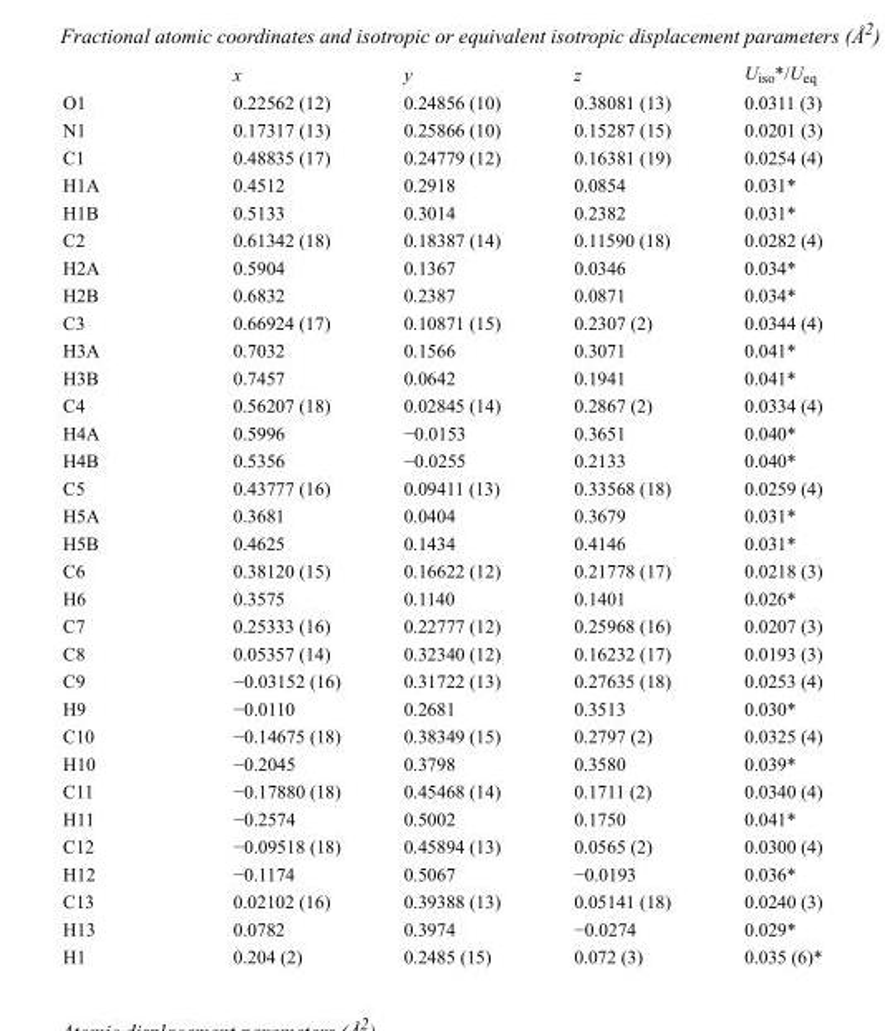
<table><thead><tr><td></td><td>x</td><td>y</td><td>z</td><td>U<sub>iso</sub>*/U<sub>eq</sub></td></tr></thead><tbody><tr><td>O1</td><td>0.22562 (12)</td><td>0.24856 (10)</td><td>0.38081 (13)</td><td>0.0311 (3)</td></tr><tr><td>N1</td><td>0.17317 (13)</td><td>0.25866 (10)</td><td>0.15287 (15)</td><td>0.0201 (3)</td></tr><tr><td>C1</td><td>0.48835 (17)</td><td>0.24779 (12)</td><td>0.16381 (19)</td><td>0.0254 (4)</td></tr><tr><td>H1A</td><td>0.4512</td><td>0.2918</td><td>0.0854</td><td>0.031*</td></tr><tr><td>H1B</td><td>0.5133</td><td>0.3014</td><td>0.2382</td><td>0.031*</td></tr><tr><td>C2</td><td>0.61342 (18)</td><td>0.18387 (14)</td><td>0.11590 (18)</td><td>0.0282 (4)</td></tr><tr><td>H2A</td><td>0.5904</td><td>0.1367</td><td>0.0346</td><td>0.034*</td></tr><tr><td>H2B</td><td>0.6832</td><td>0.2387</td><td>0.0871</td><td>0.034*</td></tr><tr><td>C3</td><td>0.66924 (17)</td><td>0.10871 (15)</td><td>0.2307 (2)</td><td>0.0344 (4)</td></tr><tr><td>H3A</td><td>0.7032</td><td>0.1566</td><td>0.3071</td><td>0.041*</td></tr><tr><td>H3B</td><td>0.7457</td><td>0.0642</td><td>0.1941</td><td>0.041*</td></tr><tr><td>C4</td><td>0.56207 (18)</td><td>0.02845 (14)</td><td>0.2867 (2)</td><td>0.0334 (4)</td></tr><tr><td>H4A</td><td>0.5996</td><td>−0.0153</td><td>0.3651</td><td>0.040*</td></tr><tr><td>H4B</td><td>0.5356</td><td>−0.0255</td><td>0.2133</td><td>0.040*</td></tr><tr><td>C5</td><td>0.43777 (16)</td><td>0.09411 (13)</td><td>0.33568 (18)</td><td>0.0259 (4)</td></tr><tr><td>H5A</td><td>0.3681</td><td>0.0404</td><td>0.3679</td><td>0.031*</td></tr><tr><td>H5B</td><td>0.4625</td><td>0.1434</td><td>0.4146</td><td>0.031*</td></tr><tr><td>C6</td><td>0.38120 (15)</td><td>0.16622 (12)</td><td>0.21778 (17)</td><td>0.0218 (3)</td></tr><tr><td>H6</td><td>0.3575</td><td>0.1140</td><td>0.1401</td><td>0.026*</td></tr><tr><td>C7</td><td>0.25333 (16)</td><td>0.22777 (12)</td><td>0.25968 (16)</td><td>0.0207 (3)</td></tr><tr><td>C8</td><td>0.05357 (14)</td><td>0.32340 (12)</td><td>0.16232 (17)</td><td>0.0193 (3)</td></tr><tr><td>C9</td><td>−0.03152 (16)</td><td>0.31722 (13)</td><td>0.27635 (18)</td><td>0.0253 (4)</td></tr><tr><td>H9</td><td>−0.0110</td><td>0.2681</td><td>0.3513</td><td>0.030*</td></tr><tr><td>C10</td><td>−0.14675 (18)</td><td>0.38349 (15)</td><td>0.2797 (2)</td><td>0.0325 (4)</td></tr><tr><td>H10</td><td>−0.2045</td><td>0.3798</td><td>0.3580</td><td>0.039*</td></tr><tr><td>C11</td><td>−0.17880 (18)</td><td>0.45468 (14)</td><td>0.1711 (2)</td><td>0.0340 (4)</td></tr><tr><td>H11</td><td>−0.2574</td><td>0.5002</td><td>0.1750</td><td>0.041*</td></tr><tr><td>C12</td><td>−0.09518 (18)</td><td>0.45894 (13)</td><td>0.0565 (2)</td><td>0.0300 (4)</td></tr><tr><td>H12</td><td>−0.1174</td><td>0.5067</td><td>−0.0193</td><td>0.036*</td></tr><tr><td>C13</td><td>0.02102 (16)</td><td>0.39388 (13)</td><td>0.05141 (18)</td><td>0.0240 (3)</td></tr><tr><td>H13</td><td>0.0782</td><td>0.3974</td><td>−0.0274</td><td>0.029*</td></tr><tr><td>H1</td><td>0.204 (2)</td><td>0.2485 (15)</td><td>0.072 (3)</td><td>0.035 (6)*</td></tr></tbody></table>